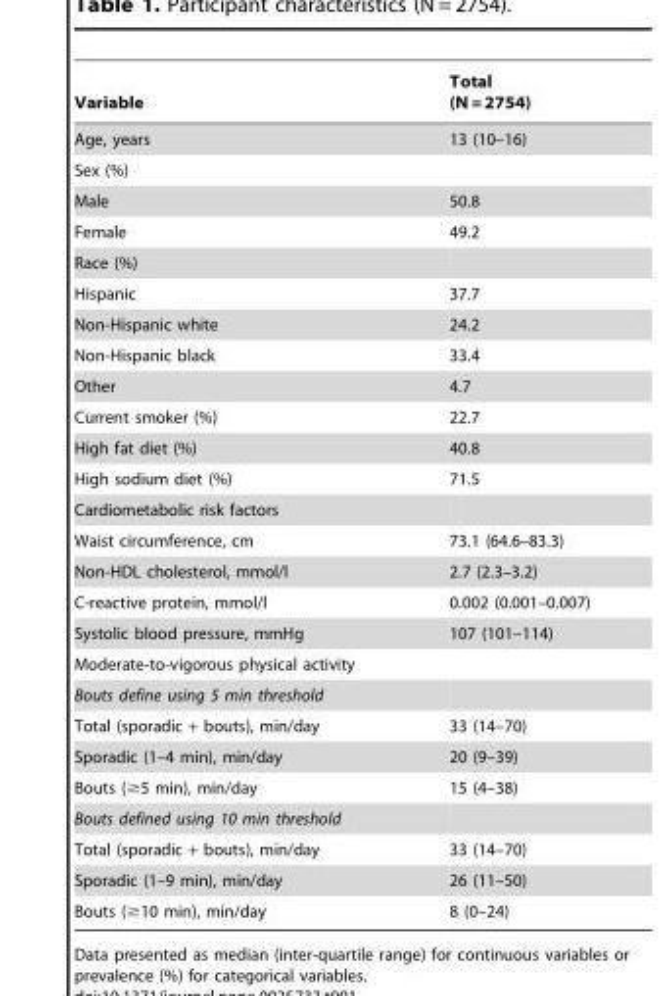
<table><thead><tr><td>Variable</td><td>Total (N = 2754)</td></tr></thead><tbody><tr><td>Age, years</td><td>13 (10–16)</td></tr><tr><td colspan="2">Sex (%)</td></tr><tr><td>Male</td><td>50.8</td></tr><tr><td>Female</td><td>49.2</td></tr><tr><td colspan="2">Race (%)</td></tr><tr><td>Hispanic</td><td>37.7</td></tr><tr><td>Non-Hispanic white</td><td>24.2</td></tr><tr><td>Non-Hispanic black</td><td>33.4</td></tr><tr><td>Other</td><td>4.7</td></tr><tr><td>Current smoker (%)</td><td>22.7</td></tr><tr><td>High fat diet (%)</td><td>40.8</td></tr><tr><td>High sodium diet (%)</td><td>71.5</td></tr><tr><td colspan="2">Cardiometabolic risk factors</td></tr><tr><td>Waist circumference, cm</td><td>73.1 (64.6–83.3)</td></tr><tr><td>Non-HDL cholesterol, mmol/l</td><td>2.7 (2.3–3.2)</td></tr><tr><td>C-reactive protein, mmol/l</td><td>0.002 (0.001–0.007)</td></tr><tr><td>Systolic blood pressure, mmHg</td><td>107 (101–114)</td></tr><tr><td colspan="2">Moderate-to-vigorous physical activity</td></tr><tr><td colspan="2">Bouts define using 5 min threshold</td></tr><tr><td>Total (sporadic + bouts), min/day</td><td>33 (14–70)</td></tr><tr><td>Sporadic (1–4 min), min/day</td><td>20 (9–39)</td></tr><tr><td>Bouts (≥5 min), min/day</td><td>15 (4–38)</td></tr><tr><td colspan="2">Bouts defined using 10 min threshold</td></tr><tr><td>Total (sporadic + bouts), min/day</td><td>33 (14–70)</td></tr><tr><td>Sporadic (1–9 min), min/day</td><td>26 (11–50)</td></tr><tr><td>Bouts (≥10 min), min/day</td><td>8 (0–24)</td></tr></tbody></table>